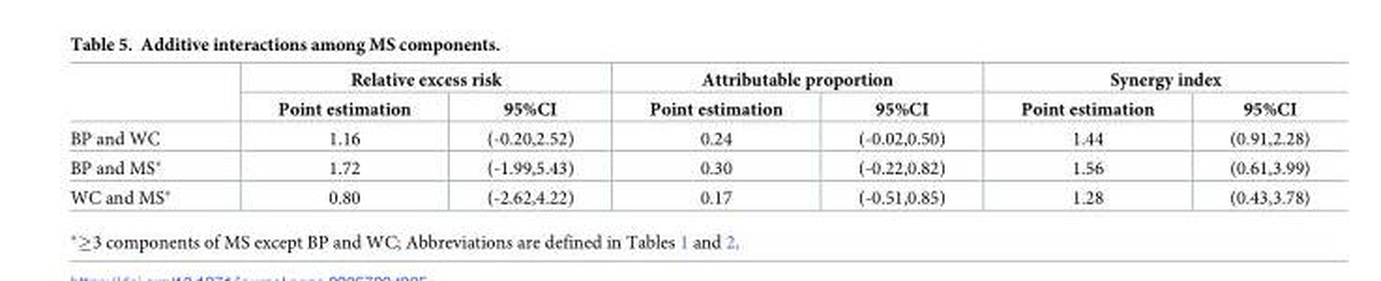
<table><thead><tr><td rowspan="2"></td><td colspan="2">Relative excess risk</td><td colspan="2">Attributable proportion</td><td colspan="2">Synergy index</td></tr><tr><td>Point estimation</td><td>95%CI</td><td>Point estimation</td><td>95%CI</td><td>Point estimation</td><td>95%CI</td></tr></thead><tbody><tr><td>BP and WC</td><td>1.16</td><td>(-0.20,2.52)</td><td>0.24</td><td>(-0.02,0.50)</td><td>1.44</td><td>(0.91,2.28)</td></tr><tr><td>BP and MS*</td><td>1.72</td><td>(-1.99,5.43)</td><td>0.30</td><td>(-0.22,0.82)</td><td>1.56</td><td>(0.61,3.99)</td></tr><tr><td>WC and MS*</td><td>0.80</td><td>(-2.62,4.22)</td><td>0.17</td><td>(-0.51,0.85)</td><td>1.28</td><td>(0.43,3.78)</td></tr></tbody></table>